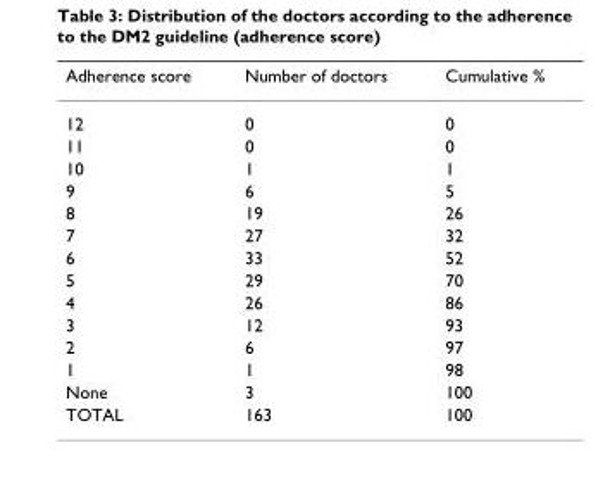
<table><thead><tr><td>Adherence score</td><td>Number of doctors</td><td>Cumulative %</td></tr></thead><tbody><tr><td>12</td><td>0</td><td>0</td></tr><tr><td>11</td><td>0</td><td>0</td></tr><tr><td>10</td><td>1</td><td>1</td></tr><tr><td>9</td><td>6</td><td>5</td></tr><tr><td>8</td><td>19</td><td>26</td></tr><tr><td>7</td><td>27</td><td>32</td></tr><tr><td>6</td><td>33</td><td>52</td></tr><tr><td>5</td><td>29</td><td>70</td></tr><tr><td>4</td><td>26</td><td>86</td></tr><tr><td>3</td><td>12</td><td>93</td></tr><tr><td>2</td><td>6</td><td>97</td></tr><tr><td>1</td><td>1</td><td>98</td></tr><tr><td>None</td><td>3</td><td>100</td></tr><tr><td>TOTAL</td><td>163</td><td>100</td></tr></tbody></table>